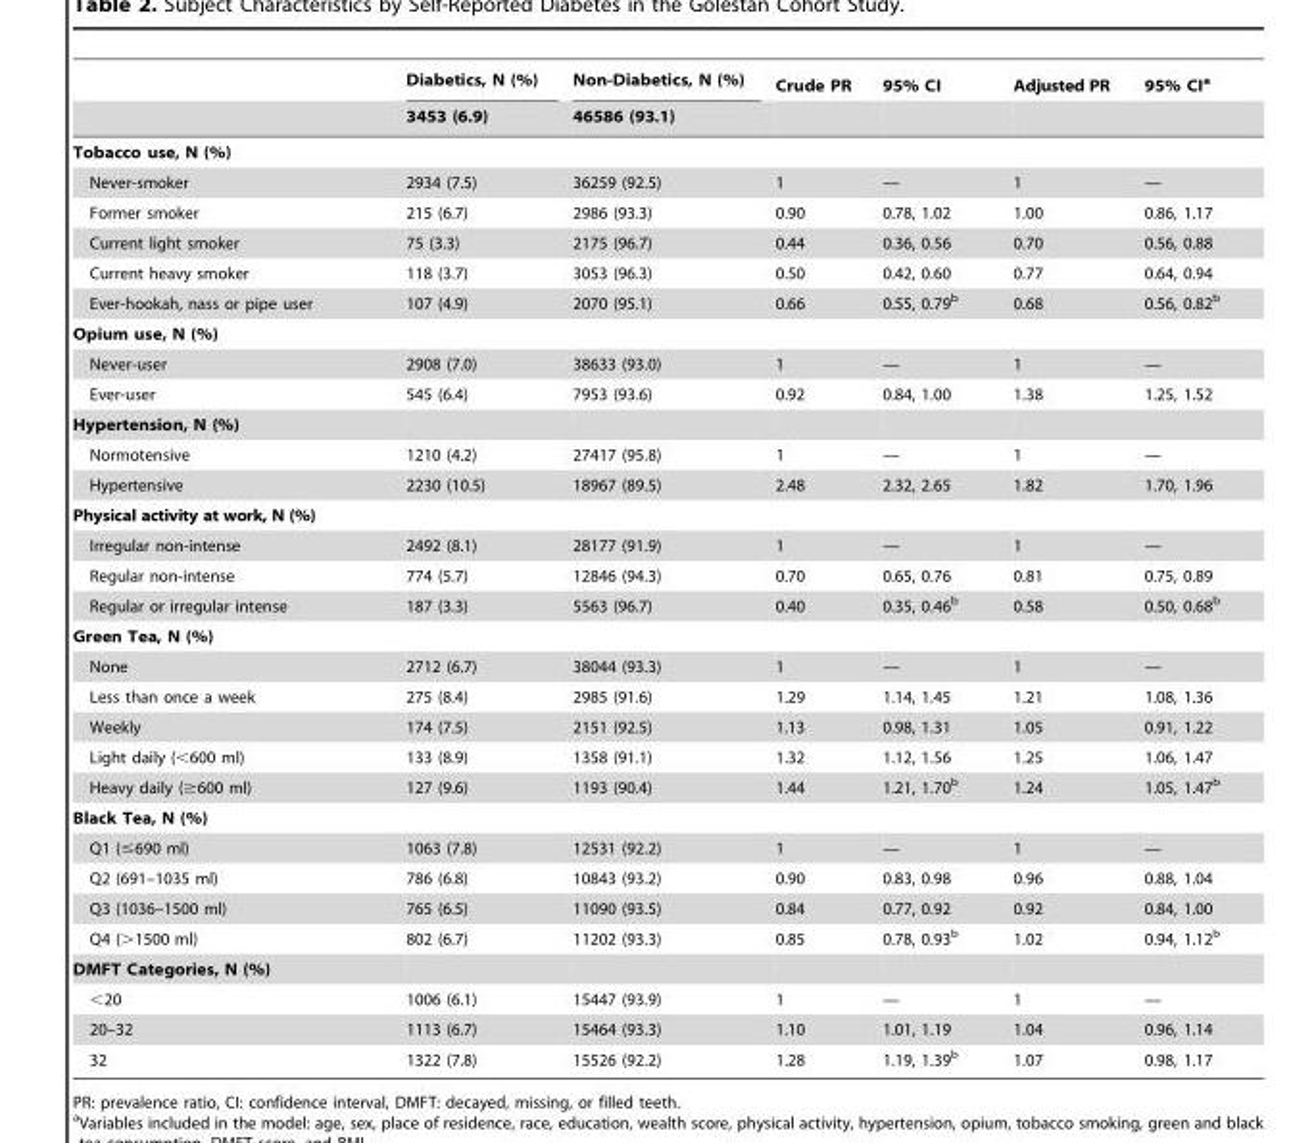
<table><thead><tr><td rowspan="2"></td><td rowspan="2">Diabetics, N (%) 3453 (6.9)</td><td rowspan="2">Non-Diabetics, N (%) 46586 (93.1)</td><td rowspan="2">Crude PR</td><td rowspan="2">95% CI</td><td rowspan="2">Adjusted PR</td><td rowspan="2">95% CI<sup>a</sup></td></tr><tr></tr></thead><tbody><tr><td colspan="7">Tobacco use, N (%)</td></tr><tr><td>Never-smoker</td><td>2934 (7.5)</td><td>36259 (92.5)</td><td>1</td><td>—</td><td>1</td><td>—</td></tr><tr><td>Former smoker</td><td>215 (6.7)</td><td>2986 (93.3)</td><td>0.90</td><td>0.78, 1.02</td><td>1.00</td><td>0.86, 1.17</td></tr><tr><td>Current light smoker</td><td>75 (3.3)</td><td>2175 (96.7)</td><td>0.44</td><td>0.36, 0.56</td><td>0.70</td><td>0.56, 0.88</td></tr><tr><td>Current heavy smoker</td><td>118 (3.7)</td><td>3053 (96.3)</td><td>0.50</td><td>0.42, 0.60</td><td>0.77</td><td>0.64, 0.94</td></tr><tr><td>Ever-hookah, nass or pipe user</td><td>107 (4.9)</td><td>2070 (95.1)</td><td>0.66</td><td>0.55, 0.79<sup>b</sup></td><td>0.68</td><td>0.56, 0.82<sup>b</sup></td></tr><tr><td colspan="7">Opium use, N (%)</td></tr><tr><td>Never-user</td><td>2908 (7.0)</td><td>38633 (93.0)</td><td>1</td><td>—</td><td>1</td><td>—</td></tr><tr><td>Ever-user</td><td>545 (6.4)</td><td>7953 (93.6)</td><td>0.92</td><td>0.84, 1.00</td><td>1.38</td><td>1.25, 1.52</td></tr><tr><td colspan="7">Hypertension, N (%)</td></tr><tr><td>Normotensive</td><td>1210 (4.2)</td><td>27417 (95.8)</td><td>1</td><td>—</td><td>1</td><td>—</td></tr><tr><td>Hypertensive</td><td>2230 (10.5)</td><td>18967 (89.5)</td><td>2.48</td><td>2.32, 2.65</td><td>1.82</td><td>1.70, 1.96</td></tr><tr><td colspan="7">Physical activity at work, N (%)</td></tr><tr><td>Irregular non-intense</td><td>2492 (8.1)</td><td>28177 (91.9)</td><td>1</td><td>—</td><td>1</td><td>—</td></tr><tr><td>Regular non-intense</td><td>774 (5.7)</td><td>12846 (94.3)</td><td>0.70</td><td>0.65, 0.76</td><td>0.81</td><td>0.75, 0.89</td></tr><tr><td>Regular or irregular intense</td><td>187 (3.3)</td><td>5563 (96.7)</td><td>0.40</td><td>0.35, 0.46<sup>b</sup></td><td>0.58</td><td>0.50, 0.68<sup>b</sup></td></tr><tr><td colspan="7">Green Tea, N (%)</td></tr><tr><td>None</td><td>2712 (6.7)</td><td>38044 (93.3)</td><td>1</td><td>—</td><td>1</td><td>—</td></tr><tr><td>Less than once a week</td><td>275 (8.4)</td><td>2985 (91.6)</td><td>1.29</td><td>1.14, 1.45</td><td>1.21</td><td>1.08, 1.36</td></tr><tr><td>Weekly</td><td>174 (7.5)</td><td>2151 (92.5)</td><td>1.13</td><td>0.98, 1.31</td><td>1.05</td><td>0.91, 1.22</td></tr><tr><td>Light daily (&lt;600 ml)</td><td>133 (8.9)</td><td>1358 (91.1)</td><td>1.32</td><td>1.12, 1.56</td><td>1.25</td><td>1.06, 1.47</td></tr><tr><td>Heavy daily (≥600 ml)</td><td>127 (9.6)</td><td>1193 (90.4)</td><td>1.44</td><td>1.21, 1.70<sup>b</sup></td><td>1.24</td><td>1.05, 1.47<sup>b</sup></td></tr><tr><td colspan="7">Black Tea, N (%)</td></tr><tr><td>Q1 (≤690 ml)</td><td>1063 (7.8)</td><td>12531 (92.2)</td><td>1</td><td>—</td><td>1</td><td>—</td></tr><tr><td>Q2 (691–1035 ml)</td><td>786 (6.8)</td><td>10843 (93.2)</td><td>0.90</td><td>0.83, 0.98</td><td>0.96</td><td>0.88, 1.04</td></tr><tr><td>Q3 (1036–1500 ml)</td><td>765 (6.5)</td><td>11090 (93.5)</td><td>0.84</td><td>0.77, 0.92</td><td>0.92</td><td>0.84, 1.00</td></tr><tr><td>Q4 (&gt;1500 ml)</td><td>802 (6.7)</td><td>11202 (93.3)</td><td>0.85</td><td>0.78, 0.93<sup>b</sup></td><td>1.02</td><td>0.94, 1.12<sup>b</sup></td></tr><tr><td colspan="7">DMFT Categories, N (%)</td></tr><tr><td>&lt;20</td><td>1006 (6.1)</td><td>15447 (93.9)</td><td>1</td><td>—</td><td>1</td><td>—</td></tr><tr><td>20–32</td><td>1113 (6.7)</td><td>15464 (93.3)</td><td>1.10</td><td>1.01, 1.19</td><td>1.04</td><td>0.96, 1.14</td></tr><tr><td>32</td><td>1322 (7.8)</td><td>15526 (92.2)</td><td>1.28</td><td>1.19, 1.39<sup>b</sup></td><td>1.07</td><td>0.98, 1.17</td></tr></tbody></table>